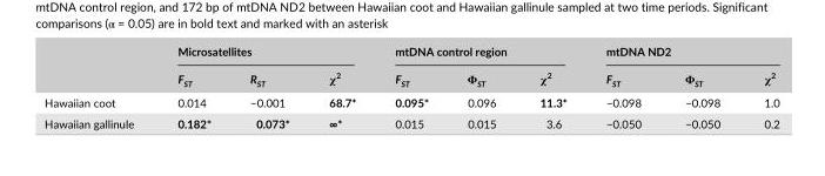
<table><thead><tr><td rowspan="2"></td><td colspan="3">Microsatellites</td><td colspan="3">mtDNA control region</td><td colspan="3">mtDNA ND2</td></tr><tr><td>F<sub>ST</sub></td><td>R<sub>ST</sub></td><td>χ<sup>2</sup></td><td>F<sub>ST</sub></td><td>Φ<sub>ST</sub></td><td>χ<sup>2</sup></td><td>F<sub>ST</sub></td><td>Φ<sub>ST</sub></td><td>χ<sup>2</sup></td></tr></thead><tbody><tr><td>Hawaiian coot</td><td>0.014</td><td>−0.001</td><td>68.7*</td><td>0.095*</td><td>0.096</td><td>11.3*</td><td>−0.098</td><td>−0.098</td><td>1.0</td></tr><tr><td>Hawaiian gallinule</td><td>0.182*</td><td>0.073*</td><td>∞*</td><td>0.015</td><td>0.015</td><td>3.6</td><td>−0.050</td><td>−0.050</td><td>0.2</td></tr></tbody></table>